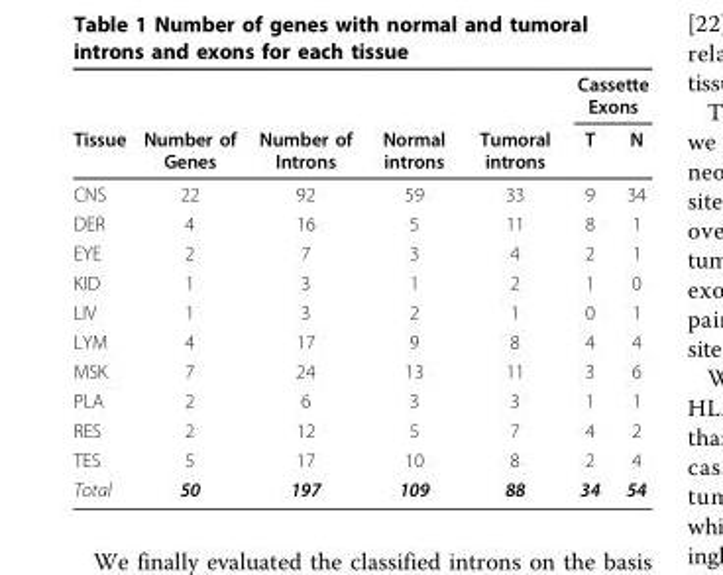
<table><thead><tr><td rowspan="2">Tissue</td><td rowspan="2">Number of Genes</td><td rowspan="2">Number of Introns</td><td rowspan="2">Normal introns</td><td rowspan="2">Tumoral introns</td><td colspan="2">Cassette Exons</td></tr><tr><td>T</td><td>N</td></tr></thead><tbody><tr><td>CNS</td><td>22</td><td>92</td><td>59</td><td>33</td><td>9</td><td>34</td></tr><tr><td>DER</td><td>4</td><td>16</td><td>5</td><td>11</td><td>8</td><td>1</td></tr><tr><td>EYE</td><td>2</td><td>7</td><td>3</td><td>4</td><td>2</td><td>1</td></tr><tr><td>KID</td><td>1</td><td>3</td><td>1</td><td>2</td><td>1</td><td>0</td></tr><tr><td>LIV</td><td>1</td><td>3</td><td>2</td><td>1</td><td>0</td><td>1</td></tr><tr><td>LYM</td><td>4</td><td>17</td><td>9</td><td>8</td><td>4</td><td>4</td></tr><tr><td>MSK</td><td>7</td><td>24</td><td>13</td><td>11</td><td>3</td><td>6</td></tr><tr><td>PLA</td><td>2</td><td>6</td><td>3</td><td>3</td><td>1</td><td>1</td></tr><tr><td>RES</td><td>2</td><td>12</td><td>5</td><td>7</td><td>4</td><td>2</td></tr><tr><td>TES</td><td>5</td><td>17</td><td>10</td><td>8</td><td>2</td><td>4</td></tr><tr><td>Total</td><td>50</td><td>197</td><td>109</td><td>88</td><td>34</td><td>54</td></tr></tbody></table>